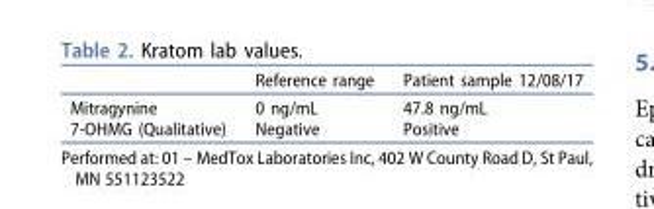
<table><thead><tr><td></td><td>Reference range</td><td>Patient sample 12/08/17</td></tr></thead><tbody><tr><td>Mitragynine</td><td>0 ng/mL</td><td>47.8 ng/mL</td></tr><tr><td>7-OHMG (Qualitative)</td><td>Negative</td><td>Positive</td></tr></tbody></table>